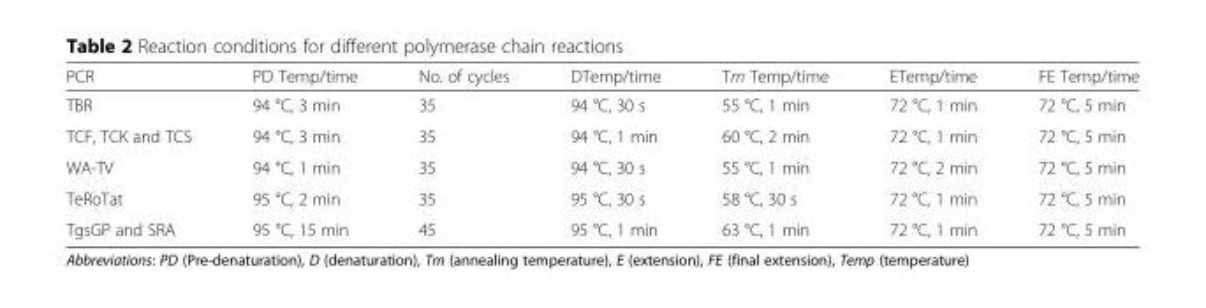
<table><thead><tr><td>PCR</td><td>PD Temp/time</td><td>No. of cycles</td><td>DTemp/time</td><td>Tm Temp/time</td><td>ETemp/time</td><td>FE Temp/time</td></tr></thead><tbody><tr><td>TBR</td><td>94 °C, 3 min</td><td>35</td><td>94 °C, 30 s</td><td>55 °C, 1 min</td><td>72 °C, 1 min</td><td>72 °C, 5 min</td></tr><tr><td>TCF, TCK and TCS</td><td>94 °C, 3 min</td><td>35</td><td>94 °C, 1 min</td><td>60 °C, 2 min</td><td>72 °C, 1 min</td><td>72 °C, 5 min</td></tr><tr><td>WA-TV</td><td>94 °C, 1 min</td><td>35</td><td>94 °C, 30 s</td><td>55 °C, 1 min</td><td>72 °C, 2 min</td><td>72 °C, 5 min</td></tr><tr><td>TeRoTat</td><td>95 °C, 2 min</td><td>35</td><td>95 °C, 30 s</td><td>58 °C, 30 s</td><td>72 °C, 1 min</td><td>72 °C, 5 min</td></tr><tr><td>TgsGP and SRA</td><td>95 °C, 15 min</td><td>45</td><td>95 °C, 1 min</td><td>63 °C, 1 min</td><td>72 °C, 1 min</td><td>72 °C, 5 min</td></tr></tbody></table>